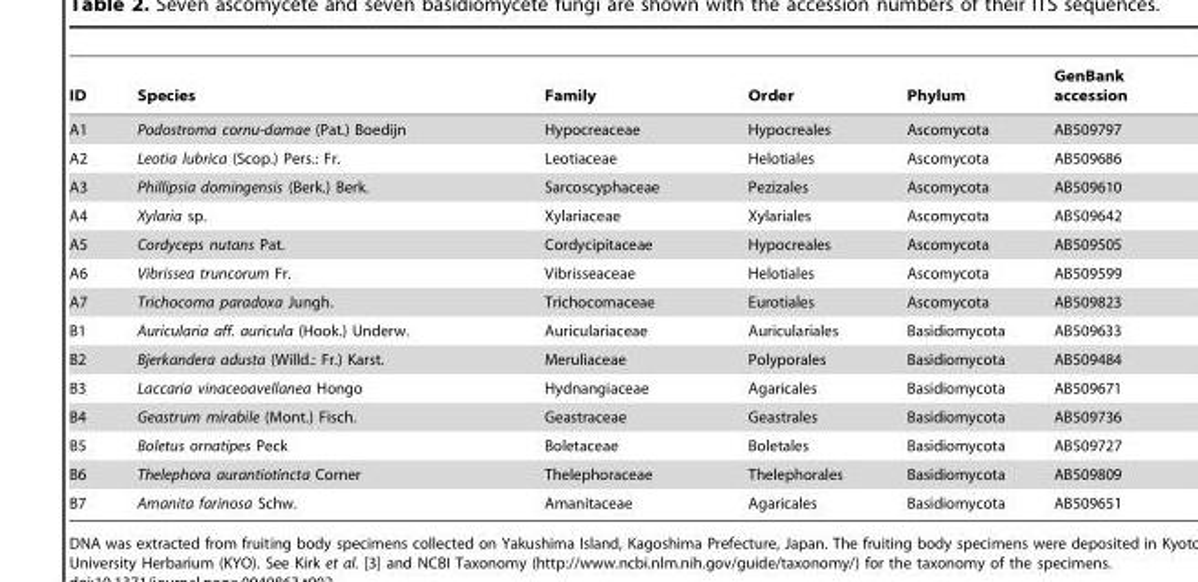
<table><thead><tr><td>ID</td><td>Species</td><td>Family</td><td>Order</td><td>Phylum</td><td>GenBank accession</td></tr></thead><tbody><tr><td>A1</td><td>Podostroma cornu-damae (Pat.) Boedijn</td><td>Hypocreaceae</td><td>Hypocreales</td><td>Ascomycota</td><td>AB509797</td></tr><tr><td>A2</td><td>Leotia lubrica (Scop.) Pers.: Fr.</td><td>Leotiaceae</td><td>Helotiales</td><td>Ascomycota</td><td>AB509686</td></tr><tr><td>A3</td><td>Phillipsia domingensis (Berk.) Berk.</td><td>Sarcoscyphaceae</td><td>Pezizales</td><td>Ascomycota</td><td>AB509610</td></tr><tr><td>A4</td><td>Xylaria sp.</td><td>Xylariaceae</td><td>Xylariales</td><td>Ascomycota</td><td>AB509642</td></tr><tr><td>A5</td><td>Cordyceps nutans Pat.</td><td>Cordycipitaceae</td><td>Hypocreales</td><td>Ascomycota</td><td>AB509505</td></tr><tr><td>A6</td><td>Vibrissea truncorum Fr.</td><td>Vibrisseaceae</td><td>Helotiales</td><td>Ascomycota</td><td>AB509599</td></tr><tr><td>A7</td><td>Trichocoma paradoxa Jungh.</td><td>Trichocomaceae</td><td>Eurotiales</td><td>Ascomycota</td><td>AB509823</td></tr><tr><td>B1</td><td>Auricularia aff. auricula (Hook.) Underw.</td><td>Auriculariaceae</td><td>Auriculariales</td><td>Basidiomycota</td><td>AB509633</td></tr><tr><td>B2</td><td>Bjerkandera adusta (Willd.: Fr.) Karst.</td><td>Meruliaceae</td><td>Polyporales</td><td>Basidiomycota</td><td>AB509484</td></tr><tr><td>B3</td><td>Laccaria vinaceoavellanea Hongo</td><td>Hydnangiaceae</td><td>Agaricales</td><td>Basidiomycota</td><td>AB509671</td></tr><tr><td>B4</td><td>Geastrum mirabile (Mont.) Fisch.</td><td>Geastraceae</td><td>Geastrales</td><td>Basidiomycota</td><td>AB509736</td></tr><tr><td>B5</td><td>Boletus ornatipes Peck</td><td>Boletaceae</td><td>Boletales</td><td>Basidiomycota</td><td>AB509727</td></tr><tr><td>B6</td><td>Thelephora aurantiotincta Corner</td><td>Thelephoraceae</td><td>Thelephorales</td><td>Basidiomycota</td><td>AB509809</td></tr><tr><td>B7</td><td>Amanita farinosa Schw.</td><td>Amanitaceae</td><td>Agaricales</td><td>Basidiomycota</td><td>AB509651</td></tr></tbody></table>